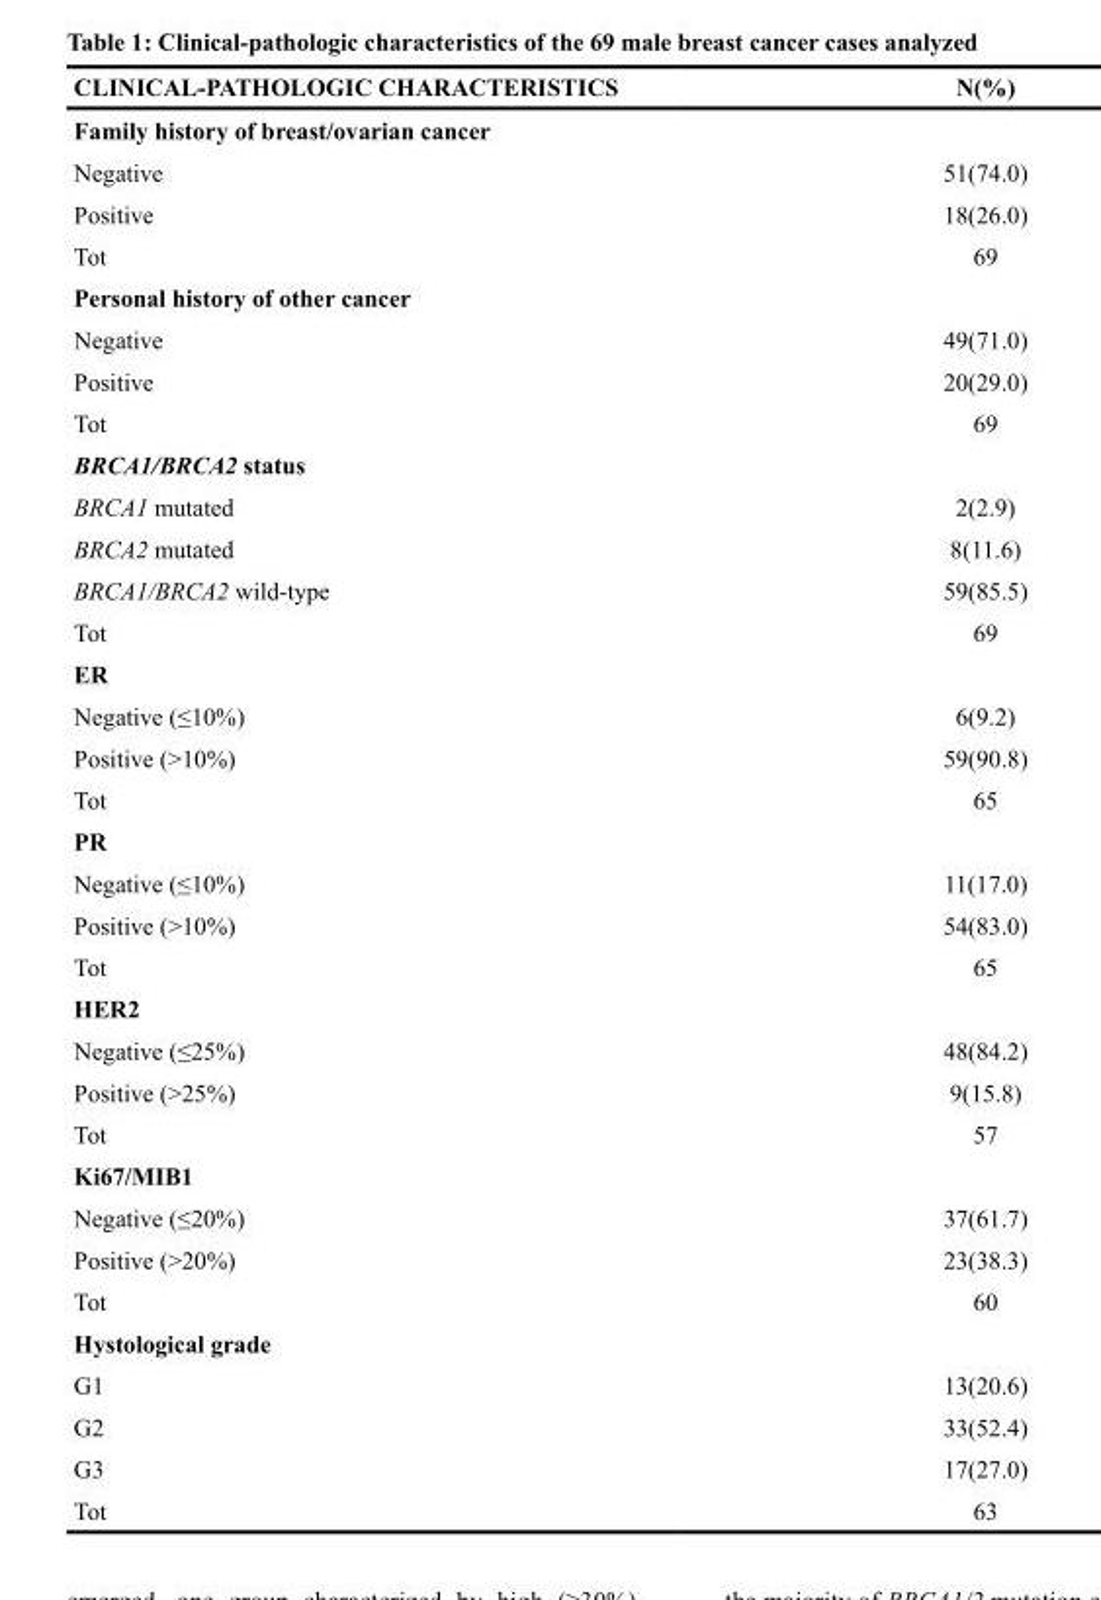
<table><thead><tr><td>CLINICAL-PATHOLOGIC CHARACTERISTICS</td><td>N(%)</td></tr></thead><tbody><tr><td colspan="2">Family history of breast/ovarian cancer</td></tr><tr><td>Negative</td><td>51(74.0)</td></tr><tr><td>Positive</td><td>18(26.0)</td></tr><tr><td>Tot</td><td>69</td></tr><tr><td colspan="2">Personal history of other cancer</td></tr><tr><td>Negative</td><td>49(71.0)</td></tr><tr><td>Positive</td><td>20(29.0)</td></tr><tr><td>Tot</td><td>69</td></tr><tr><td colspan="2">BRCA1/BRCA2 status</td></tr><tr><td>BRCA1 mutated</td><td>2(2.9)</td></tr><tr><td>BRCA2 mutated</td><td>8(11.6)</td></tr><tr><td>BRCA1/BRCA2 wild-type</td><td>59(85.5)</td></tr><tr><td>Tot</td><td>69</td></tr><tr><td colspan="2">ER</td></tr><tr><td>Negative (≤10%)</td><td>6(9.2)</td></tr><tr><td>Positive (&gt;10%)</td><td>59(90.8)</td></tr><tr><td>Tot</td><td>65</td></tr><tr><td colspan="2">PR</td></tr><tr><td>Negative (≤10%)</td><td>11(17.0)</td></tr><tr><td>Positive (&gt;10%)</td><td>54(83.0)</td></tr><tr><td>Tot</td><td>65</td></tr><tr><td colspan="2">HER2</td></tr><tr><td>Negative (≤25%)</td><td>48(84.2)</td></tr><tr><td>Positive (&gt;25%)</td><td>9(15.8)</td></tr><tr><td>Tot</td><td>57</td></tr><tr><td colspan="2">Ki67/MIB1</td></tr><tr><td>Negative (≤20%)</td><td>37(61.7)</td></tr><tr><td>Positive (&gt;20%)</td><td>23(38.3)</td></tr><tr><td>Tot</td><td>60</td></tr><tr><td colspan="2">Hystological grade</td></tr><tr><td>G1</td><td>13(20.6)</td></tr><tr><td>G2</td><td>33(52.4)</td></tr><tr><td>G3</td><td>17(27.0)</td></tr><tr><td>Tot</td><td>63</td></tr></tbody></table>